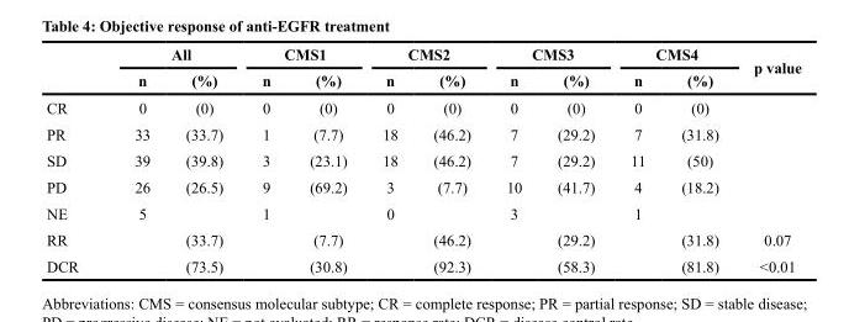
<table><thead><tr><td rowspan="2"></td><td colspan="2">All</td><td colspan="2">CMS1</td><td colspan="2">CMS2</td><td colspan="2">CMS3</td><td colspan="2">CMS4</td><td rowspan="2">p value</td></tr><tr><td>n</td><td>(%)</td><td>n</td><td>(%)</td><td>n</td><td>(%)</td><td>n</td><td>(%)</td><td>n</td><td>(%)</td></tr></thead><tbody><tr><td>CR</td><td>0</td><td>(0)</td><td>0</td><td>(0)</td><td>0</td><td>(0)</td><td>0</td><td>(0)</td><td>0</td><td>(0)</td><td></td></tr><tr><td>PR</td><td>33</td><td>(33.7)</td><td>1</td><td>(7.7)</td><td>18</td><td>(46.2)</td><td>7</td><td>(29.2)</td><td>7</td><td>(31.8)</td><td></td></tr><tr><td>SD</td><td>39</td><td>(39.8)</td><td>3</td><td>(23.1)</td><td>18</td><td>(46.2)</td><td>7</td><td>(29.2)</td><td>11</td><td>(50)</td><td></td></tr><tr><td>PD</td><td>26</td><td>(26.5)</td><td>9</td><td>(69.2)</td><td>3</td><td>(7.7)</td><td>10</td><td>(41.7)</td><td>4</td><td>(18.2)</td><td></td></tr><tr><td>NE</td><td>5</td><td></td><td>1</td><td></td><td>0</td><td></td><td>3</td><td></td><td>1</td><td></td><td></td></tr><tr><td>RR</td><td></td><td>(33.7)</td><td></td><td>(7.7)</td><td></td><td>(46.2)</td><td></td><td>(29.2)</td><td></td><td>(31.8)</td><td>0.07</td></tr><tr><td>DCR</td><td></td><td>(73.5)</td><td></td><td>(30.8)</td><td></td><td>(92.3)</td><td></td><td>(58.3)</td><td></td><td>(81.8)</td><td>&lt;0.01</td></tr></tbody></table>